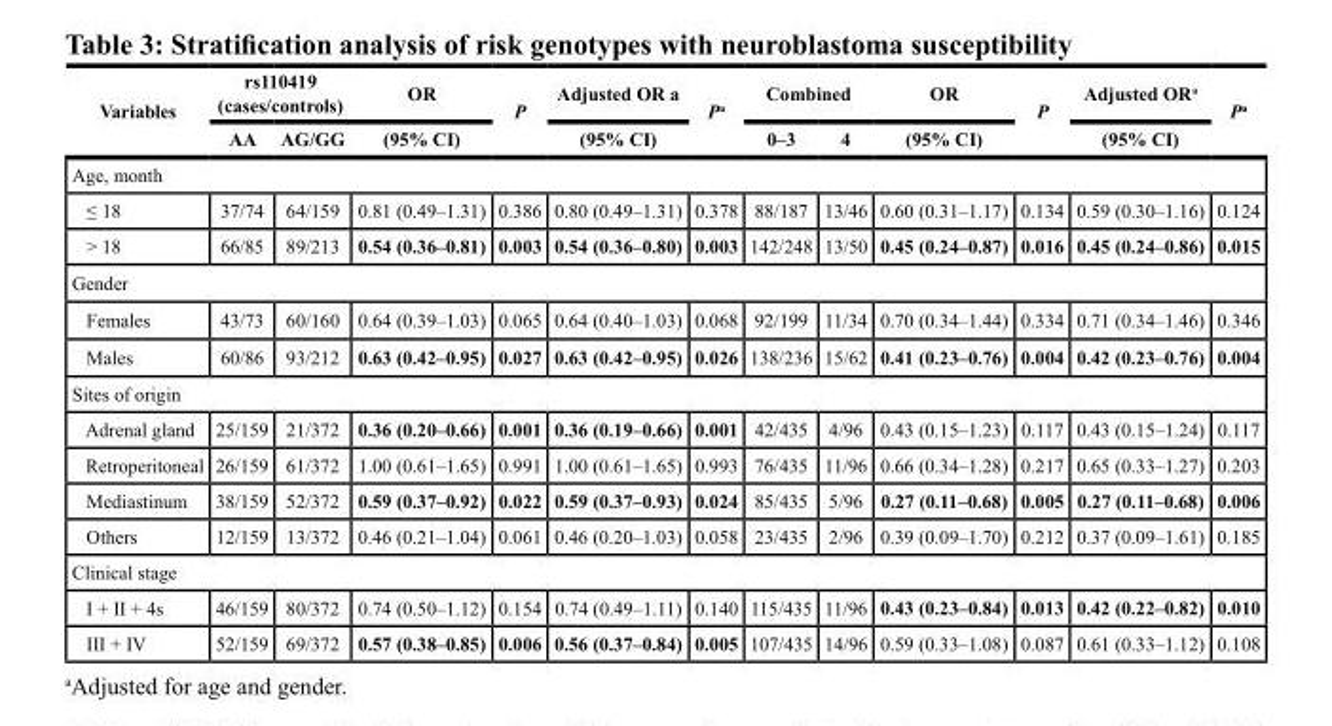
<table><thead><tr><td rowspan="2">Variables</td><td colspan="2">rs110419 (cases/controls)</td><td rowspan="2">OR (95% CI)</td><td rowspan="2">P</td><td rowspan="2">Adjusted OR a (95% CI)</td><td rowspan="2">P<sup>a</sup></td><td colspan="2">Combined</td><td rowspan="2">OR (95% CI)</td><td rowspan="2">P</td><td rowspan="2">Adjusted ORa (95% CI)</td><td rowspan="2">P<sup>a</sup></td></tr><tr><td>AA</td><td>AG/GG</td><td>0–3</td><td>4</td></tr></thead><tbody><tr><td colspan="13">Age, month</td></tr><tr><td>≤ 18</td><td>37/74</td><td>64/159</td><td>0.81 (0.49–1.31)</td><td>0.386</td><td>0.80 (0.49–1.31)</td><td>0.378</td><td>88/187</td><td>13/46</td><td>0.60 (0.31–1.17)</td><td>0.134</td><td>0.59 (0.30–1.16)</td><td>0.124</td></tr><tr><td>&gt; 18</td><td>66/85</td><td>89/213</td><td>0.54 (0.36–0.81)</td><td>0.003</td><td>0.54 (0.36–0.80)</td><td>0.003</td><td>142/248</td><td>13/50</td><td>0.45 (0.24–0.87)</td><td>0.016</td><td>0.45 (0.24–0.86)</td><td>0.015</td></tr><tr><td colspan="13">Gender</td></tr><tr><td>Females</td><td>43/73</td><td>60/160</td><td>0.64 (0.39–1.03)</td><td>0.065</td><td>0.64 (0.40–1.03)</td><td>0.068</td><td>92/199</td><td>11/34</td><td>0.70 (0.34–1.44)</td><td>0.334</td><td>0.71 (0.34–1.46)</td><td>0.346</td></tr><tr><td>Males</td><td>60/86</td><td>93/212</td><td>0.63 (0.42–0.95)</td><td>0.027</td><td>0.63 (0.42–0.95)</td><td>0.026</td><td>138/236</td><td>15/62</td><td>0.41 (0.23–0.76)</td><td>0.004</td><td>0.42 (0.23–0.76)</td><td>0.004</td></tr><tr><td colspan="13">Sites of origin</td></tr><tr><td>Adrenal gland</td><td>25/159</td><td>21/372</td><td>0.36 (0.20–0.66)</td><td>0.001</td><td>0.36 (0.19–0.66)</td><td>0.001</td><td>42/435</td><td>4/96</td><td>0.43 (0.15–1.23)</td><td>0.117</td><td>0.43 (0.15–1.24)</td><td>0.117</td></tr><tr><td>Retroperitoneal</td><td>26/159</td><td>61/372</td><td>1.00 (0.61–1.65)</td><td>0.991</td><td>1.00 (0.61–1.65)</td><td>0.993</td><td>76/435</td><td>11/96</td><td>0.66 (0.34–1.28)</td><td>0.217</td><td>0.65 (0.33–1.27)</td><td>0.203</td></tr><tr><td>Mediastinum</td><td>38/159</td><td>52/372</td><td>0.59 (0.37–0.92)</td><td>0.022</td><td>0.59 (0.37–0.93)</td><td>0.024</td><td>85/435</td><td>5/96</td><td>0.27 (0.11–0.68)</td><td>0.005</td><td>0.27 (0.11–0.68)</td><td>0.006</td></tr><tr><td>Others</td><td>12/159</td><td>13/372</td><td>0.46 (0.21–1.04)</td><td>0.061</td><td>0.46 (0.20–1.03)</td><td>0.058</td><td>23/435</td><td>2/96</td><td>0.39 (0.09–1.70)</td><td>0.212</td><td>0.37 (0.09–1.61)</td><td>0.185</td></tr><tr><td colspan="13">Clinical stage</td></tr><tr><td>I + II + 4s</td><td>46/159</td><td>80/372</td><td>0.74 (0.50–1.12)</td><td>0.154</td><td>0.74 (0.49–1.11)</td><td>0.140</td><td>115/435</td><td>11/96</td><td>0.43 (0.23–0.84)</td><td>0.013</td><td>0.42 (0.22–0.82)</td><td>0.010</td></tr><tr><td>III + IV</td><td>52/159</td><td>69/372</td><td>0.57 (0.38–0.85)</td><td>0.006</td><td>0.56 (0.37–0.84)</td><td>0.005</td><td>107/435</td><td>14/96</td><td>0.59 (0.33–1.08)</td><td>0.087</td><td>0.61 (0.33–1.12)</td><td>0.108</td></tr></tbody></table>